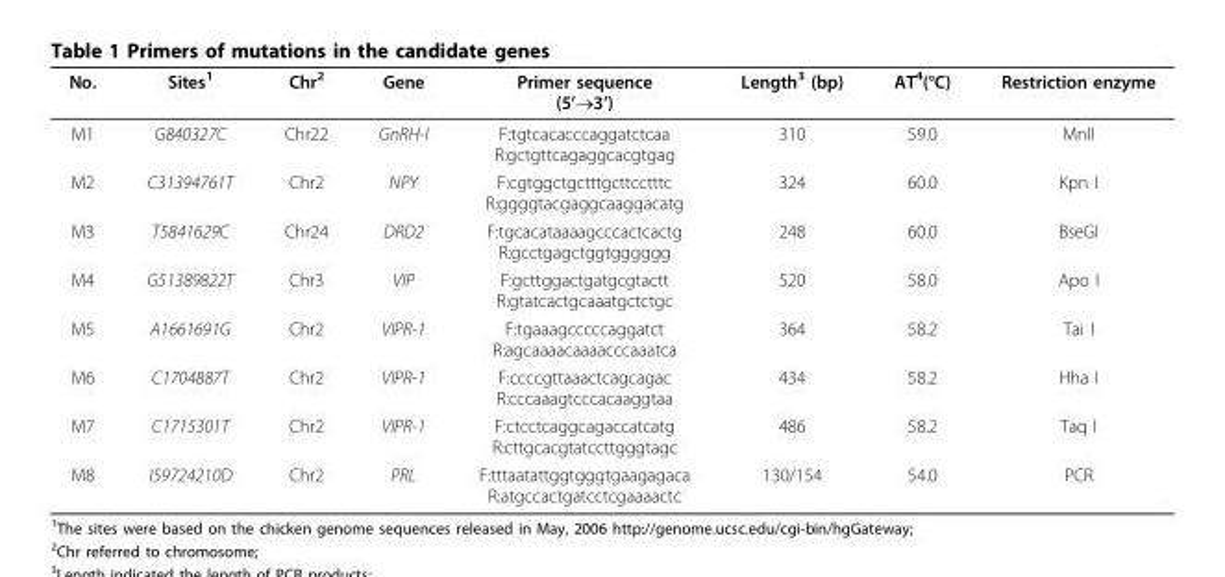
<table><thead><tr><td>No.</td><td>Sites<sup>1</sup></td><td>Chr<sup>2</sup></td><td>Gene</td><td>Primer sequence (5’→3’)</td><td>Length<sup>3</sup> (bp)</td><td>AT<sup>4</sup>(°C)</td><td>Restriction enzyme</td></tr></thead><tbody><tr><td>M1</td><td>G840327C</td><td>Chr22</td><td>GnRH-I</td><td>F:tgtcacacccaggatctcaa R:gctgttcagaggcacgtgag</td><td>310</td><td>59.0</td><td>MnII</td></tr><tr><td>M2</td><td>C31394761T</td><td>Chr2</td><td>NPY</td><td>F:cgtggctgctttgcttcctttc R:ggggtacgaggcaaggacatg</td><td>324</td><td>60.0</td><td>Kpn I</td></tr><tr><td>M3</td><td>T5841629C</td><td>Chr24</td><td>DRD2</td><td>F:tgcacataaaagcccactcactg R:gcctgagctggtgggggg</td><td>248</td><td>60.0</td><td>BseGI</td></tr><tr><td>M4</td><td>G51389822T</td><td>Chr3</td><td>VIP</td><td>F:gcttggactgatgcgtactt R:gtatcactgcaaatgctctgc</td><td>520</td><td>58.0</td><td>Apo I</td></tr><tr><td>M5</td><td>A1661691G</td><td>Chr2</td><td>VIPR-1</td><td>F:tgaaagcccccaggatct R:agcaaaacaaaacccaaatca</td><td>364</td><td>58.2</td><td>Tai I</td></tr><tr><td>M6</td><td>C1704887T</td><td>Chr2</td><td>VIPR-1</td><td>F:ccccgttaaactcagcagac R:cccaaagtcccacaaggtaa</td><td>434</td><td>58.2</td><td>Hha I</td></tr><tr><td>M7</td><td>C1715301T</td><td>Chr2</td><td>VIPR-1</td><td>F:ctcctcaggcagaccatcatg R:cttgcacgtatccttgggtagc</td><td>486</td><td>58.2</td><td>Taq I</td></tr><tr><td>M8</td><td>I59724210D</td><td>Chr2</td><td>PRL</td><td>F:tttaatattggtgggtgaagagaca R:atgccactgatcctcgaaaactc</td><td>130/154</td><td>54.0</td><td>PCR</td></tr></tbody></table>